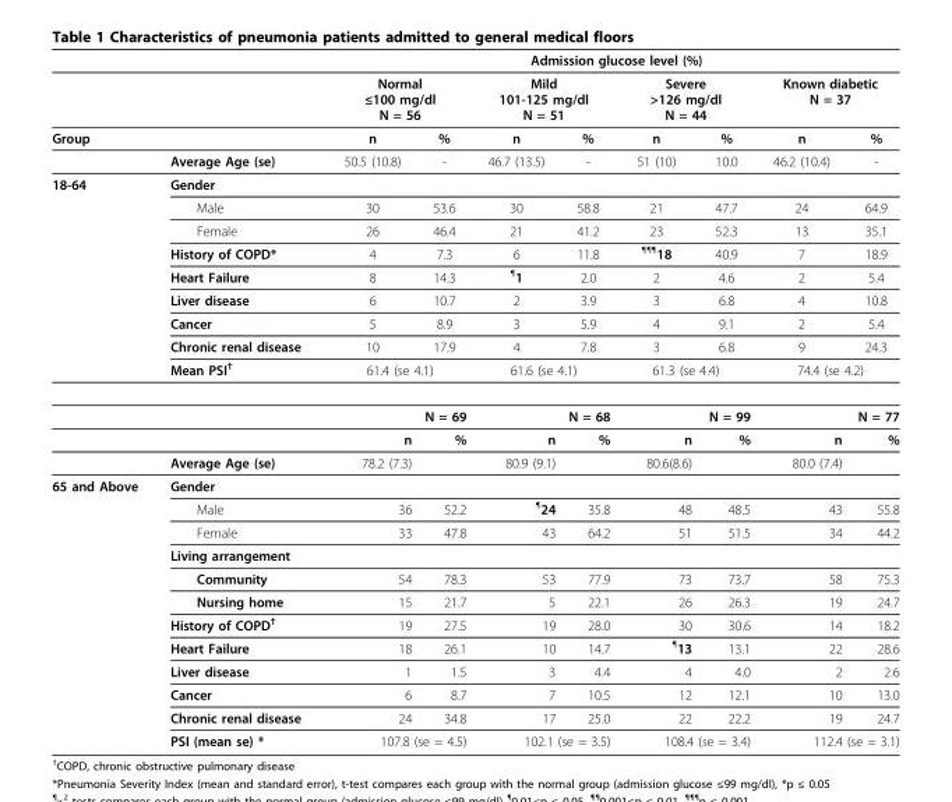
<table><thead><tr><td rowspan="3">Group</td><td rowspan="3"></td><td colspan="8">Admission glucose level (%)</td></tr><tr><td colspan="2">Normal ≤100 mg/dl N = 56</td><td colspan="2">Mild 101-125 mg/dl N = 51</td><td colspan="2">Severe &gt;126 mg/dl N = 44</td><td colspan="2">Known diabetic N = 37</td></tr><tr><td>n</td><td>%</td><td>n</td><td>%</td><td>n</td><td>%</td><td>n</td><td>%</td></tr></thead><tbody><tr><td></td><td>Average Age (se)</td><td>50.5 (10.8)</td><td>-</td><td>46.7 (13.5)</td><td>-</td><td>51 (10)</td><td>10.0</td><td>46.2 (10.4)</td><td>-</td></tr><tr><td rowspan="12">18-64</td><td>Gender</td><td></td><td></td><td></td><td></td><td></td><td></td><td></td><td></td></tr><tr><td>Male</td><td>30</td><td>53.6</td><td>30</td><td>58.8</td><td>21</td><td>47.7</td><td>24</td><td>64.9</td></tr><tr><td>Female</td><td>26</td><td>46.4</td><td>21</td><td>41.2</td><td>23</td><td>52.3</td><td>13</td><td>35.1</td></tr><tr><td>History of COPD*</td><td>4</td><td>7.3</td><td>6</td><td>11.8</td><td>¶¶¶18</td><td>40.9</td><td>7</td><td>18.9</td></tr><tr><td>Heart Failure</td><td>8</td><td>14.3</td><td>¶1</td><td>2.0</td><td>2</td><td>4.6</td><td>2</td><td>5.4</td></tr><tr><td>Liver disease</td><td>6</td><td>10.7</td><td>2</td><td>3.9</td><td>3</td><td>6.8</td><td>4</td><td>10.8</td></tr><tr><td>Cancer</td><td>5</td><td>8.9</td><td>3</td><td>5.9</td><td>4</td><td>9.1</td><td>2</td><td>5.4</td></tr><tr><td>Chronic renal disease</td><td>10</td><td>17.9</td><td>4</td><td>7.8</td><td>3</td><td>6.8</td><td>9</td><td>24.3</td></tr><tr><td>Mean PSI†</td><td colspan="2">61.4 (se 4.1)</td><td colspan="2">61.6 (se 4.1)</td><td colspan="2">61.3 (se 4.4)</td><td colspan="2">74.4 (se 4.2)</td></tr><tr><td></td><td colspan="2">N = 69</td><td colspan="2">N = 68</td><td colspan="2">N = 99</td><td colspan="2">N = 77</td></tr><tr><td></td><td>n</td><td>%</td><td>n</td><td>%</td><td>n</td><td>%</td><td>n</td><td>%</td></tr><tr><td>Average Age (se)</td><td>78.2 (7.3)</td><td></td><td>80.9 (9.1)</td><td></td><td>80.6(8.6)</td><td></td><td>80.0 (7.4)</td><td></td></tr><tr><td rowspan="12">65 and Above</td><td>Gender</td><td></td><td></td><td></td><td></td><td></td><td></td><td></td><td></td></tr><tr><td>Male</td><td>36</td><td>52.2</td><td>¶24</td><td>35.8</td><td>48</td><td>48.5</td><td>43</td><td>55.8</td></tr><tr><td>Female</td><td>33</td><td>47.8</td><td>43</td><td>64.2</td><td>51</td><td>51.5</td><td>34</td><td>44.2</td></tr><tr><td>Living arrangement</td><td></td><td></td><td></td><td></td><td></td><td></td><td></td><td></td></tr><tr><td>Community</td><td>54</td><td>78.3</td><td>53</td><td>77.9</td><td>73</td><td>73.7</td><td>58</td><td>75.3</td></tr><tr><td>Nursing home</td><td>15</td><td>21.7</td><td>5</td><td>22.1</td><td>26</td><td>26.3</td><td>19</td><td>24.7</td></tr><tr><td>History of COPD†</td><td>19</td><td>27.5</td><td>19</td><td>28.0</td><td>30</td><td>30.6</td><td>14</td><td>18.2</td></tr><tr><td>Heart Failure</td><td>18</td><td>26.1</td><td>10</td><td>14.7</td><td>¶13</td><td>13.1</td><td>22</td><td>28.6</td></tr><tr><td>Liver disease</td><td>1</td><td>1.5</td><td>3</td><td>4.4</td><td>4</td><td>4.0</td><td>2</td><td>2.6</td></tr><tr><td>Cancer</td><td>6</td><td>8.7</td><td>7</td><td>10.5</td><td>12</td><td>12.1</td><td>10</td><td>13.0</td></tr><tr><td>Chronic renal disease</td><td>24</td><td>34.8</td><td>17</td><td>25.0</td><td>22</td><td>22.2</td><td>19</td><td>24.7</td></tr><tr><td>PSI (mean se) *</td><td colspan="2">107.8 (se = 4.5)</td><td colspan="2">102.1 (se = 3.5)</td><td colspan="2">108.4 (se = 3.4)</td><td colspan="2">112.4 (se = 3.1)</td></tr></tbody></table>